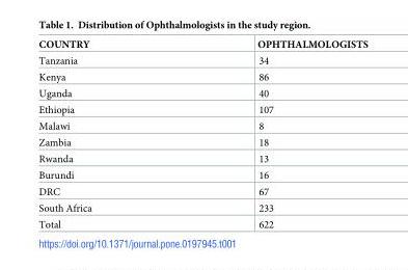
<table><thead><tr><td>COUNTRY</td><td>OPHTHALMOLOGISTS</td></tr></thead><tbody><tr><td>Tanzania</td><td>34</td></tr><tr><td>Kenya</td><td>86</td></tr><tr><td>Uganda</td><td>40</td></tr><tr><td>Ethiopia</td><td>107</td></tr><tr><td>Malawi</td><td>8</td></tr><tr><td>Zambia</td><td>18</td></tr><tr><td>Rwanda</td><td>13</td></tr><tr><td>Burundi</td><td>16</td></tr><tr><td>DRC</td><td>67</td></tr><tr><td>South Africa</td><td>233</td></tr><tr><td>Total</td><td>622</td></tr></tbody></table>